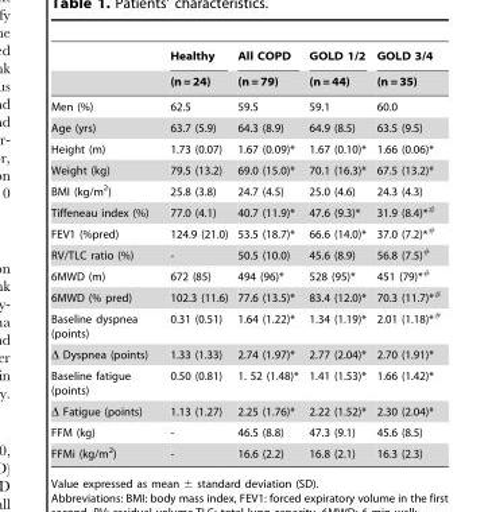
<table><thead><tr><td rowspan="2"></td><td rowspan="2">Healthy (n = 24)</td><td rowspan="2">All COPD (n = 79)</td><td rowspan="2">GOLD 1/2 (n = 44)</td><td rowspan="2">GOLD 3/4 (n = 35)</td></tr><tr></tr></thead><tbody><tr><td>Men (%)</td><td>62.5</td><td>59.5</td><td>59.1</td><td>60.0</td></tr><tr><td>Age (yrs)</td><td>63.7 (5.9)</td><td>64.3 (8.9)</td><td>64.9 (8.5)</td><td>63.5 (9.5)</td></tr><tr><td>Height (m)</td><td>1.73 (0.07)</td><td>1.67 (0.09)*</td><td>1.67 (0.10)*</td><td>1.66 (0.06)*</td></tr><tr><td>Weight (kg)</td><td>79.5 (13.2)</td><td>69.0 (15.0)*</td><td>70.1 (16.3)*</td><td>67.5 (13.2)*</td></tr><tr><td>BMI (kg/m<sup>2</sup>)</td><td>25.8 (3.8)</td><td>24.7 (4.5)</td><td>25.0 (4.6)</td><td>24.3 (4.3)</td></tr><tr><td>Tiffeneau index (%)</td><td>77.0 (4.1)</td><td>40.7 (11.9)*</td><td>47.6 (9.3)*</td><td>31.9 (8.4)*#</td></tr><tr><td>FEV1 (%pred)</td><td>124.9 (21.0)</td><td>53.5 (18.7)*</td><td>66.6 (14.0)*</td><td>37.0 (7.2)*#</td></tr><tr><td>RV/TLC ratio (%)</td><td>-</td><td>50.5 (10.0)</td><td>45.6 (8.9)</td><td>56.8 (7.5)#</td></tr><tr><td>6MWD (m)</td><td>672 (85)</td><td>494 (96)*</td><td>528 (95)*</td><td>451 (79)*#</td></tr><tr><td>6MWD (% pred)</td><td>102.3 (11.6)</td><td>77.6 (13.5)*</td><td>83.4 (12.0)*</td><td>70.3 (11.7)*#</td></tr><tr><td>Baseline dyspnea (points)</td><td>0.31 (0.51)</td><td>1.64 (1.22)*</td><td>1.34 (1.19)*</td><td>2.01 (1.18)*#</td></tr><tr><td>Δ Dyspnea (points)</td><td>1.33 (1.33)</td><td>2.74 (1.97)*</td><td>2.77 (2.04)*</td><td>2.70 (1.91)*</td></tr><tr><td>Baseline fatigue (points)</td><td>0.50 (0.81)</td><td>1. 52 (1.48)*</td><td>1.41 (1.53)*</td><td>1.66 (1.42)*</td></tr><tr><td>Δ Fatigue (points)</td><td>1.13 (1.27)</td><td>2.25 (1.76)*</td><td>2.22 (1.52)*</td><td>2.30 (2.04)*</td></tr><tr><td>FFM (kg)</td><td>-</td><td>46.5 (8.8)</td><td>47.3 (9.1)</td><td>45.6 (8.5)</td></tr><tr><td>FFMi (kg/m<sup>2</sup>)</td><td>-</td><td>16.6 (2.2)</td><td>16.8 (2.1)</td><td>16.3 (2.3)</td></tr></tbody></table>